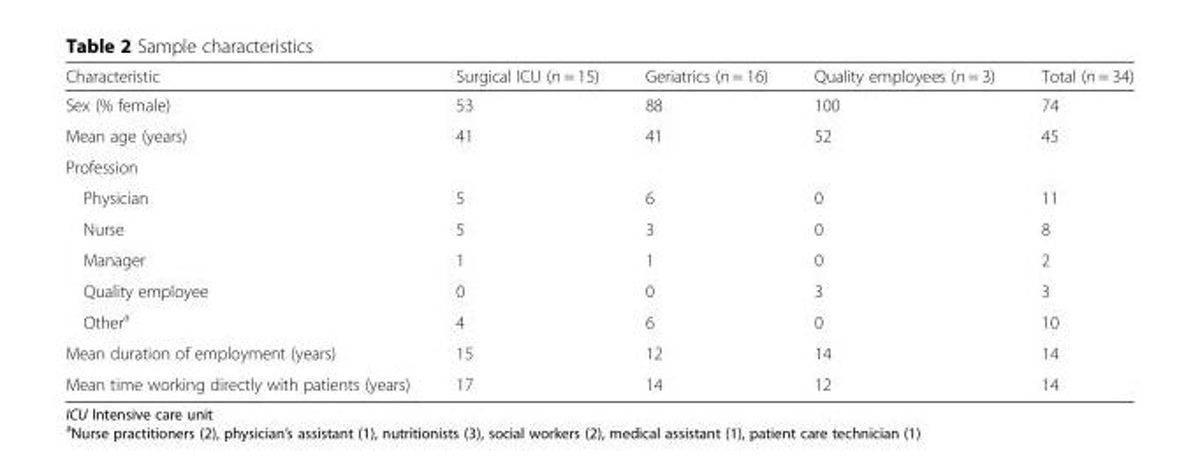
<table><thead><tr><td>Characteristic</td><td>Surgical ICU (n = 15)</td><td>Geriatrics (n = 16)</td><td>Quality employees (n = 3)</td><td>Total (n = 34)</td></tr></thead><tbody><tr><td>Sex (% female)</td><td>53</td><td>88</td><td>100</td><td>74</td></tr><tr><td>Mean age (years)</td><td>41</td><td>41</td><td>52</td><td>45</td></tr><tr><td colspan="5">Profession</td></tr><tr><td>Physician</td><td>5</td><td>6</td><td>0</td><td>11</td></tr><tr><td>Nurse</td><td>5</td><td>3</td><td>0</td><td>8</td></tr><tr><td>Manager</td><td>1</td><td>1</td><td>0</td><td>2</td></tr><tr><td>Quality employee</td><td>0</td><td>0</td><td>3</td><td>3</td></tr><tr><td>Other<sup>a</sup></td><td>4</td><td>6</td><td>0</td><td>10</td></tr><tr><td>Mean duration of employment (years)</td><td>15</td><td>12</td><td>14</td><td>14</td></tr><tr><td>Mean time working directly with patients (years)</td><td>17</td><td>14</td><td>12</td><td>14</td></tr></tbody></table>